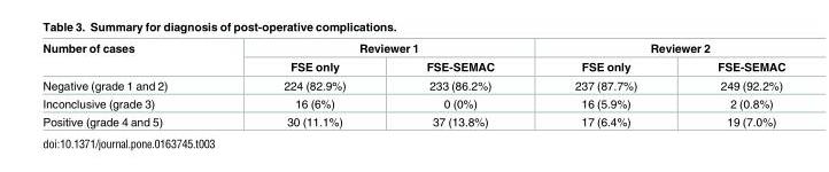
<table><thead><tr><td rowspan="2">Number of cases</td><td colspan="2">Reviewer 1</td><td colspan="2">Reviewer 2</td></tr><tr><td>FSE only</td><td>FSE-SEMAC</td><td>FSE only</td><td>FSE-SEMAC</td></tr></thead><tbody><tr><td>Negative (grade 1 and 2)</td><td>224 (82.9%)</td><td>233 (86.2%)</td><td>237 (87.7%)</td><td>249 (92.2%)</td></tr><tr><td>Inconclusive (grade 3)</td><td>16 (6%)</td><td>0 (0%)</td><td>16 (5.9%)</td><td>2 (0.8%)</td></tr><tr><td>Positive (grade 4 and 5)</td><td>30 (11.1%)</td><td>37 (13.8%)</td><td>17 (6.4%)</td><td>19 (7.0%)</td></tr></tbody></table>